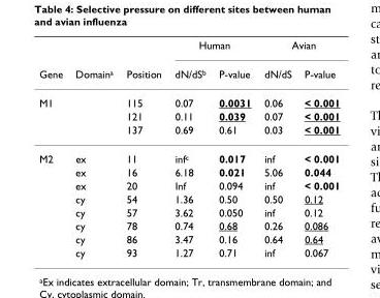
<table><thead><tr><td rowspan="2">Gene</td><td rowspan="2">Domain<sup>a</sup></td><td rowspan="2">Position</td><td colspan="2">Human</td><td colspan="2">Avian</td></tr><tr><td>dN/dS<sup>b</sup></td><td>P-value</td><td>dN/dS</td><td>P-value</td></tr></thead><tbody><tr><td rowspan="3">M1</td><td></td><td>115</td><td>0.07</td><td>0.0031</td><td>0.06</td><td>&lt; 0.001</td></tr><tr><td></td><td>121</td><td>0.11</td><td>0.039</td><td>0.07</td><td>&lt; 0.001</td></tr><tr><td></td><td>137</td><td>0.69</td><td>0.61</td><td>0.03</td><td>&lt; 0.001</td></tr><tr><td rowspan="8">M2</td><td>ex</td><td>11</td><td>inf<sup>c</sup></td><td>0.017</td><td>inf</td><td>&lt; 0.001</td></tr><tr><td>ex</td><td>16</td><td>6.18</td><td>0.021</td><td>5.06</td><td>0.044</td></tr><tr><td>ex</td><td>20</td><td>Inf</td><td>0.094</td><td>inf</td><td>&lt; 0.001</td></tr><tr><td>cy</td><td>54</td><td>1.36</td><td>0.50</td><td>0.50</td><td>0.12</td></tr><tr><td>cy</td><td>57</td><td>3.62</td><td>0.050</td><td>inf</td><td>0.12</td></tr><tr><td>cy</td><td>78</td><td>0.74</td><td>0.68</td><td>0.26</td><td>0.086</td></tr><tr><td>cy</td><td>86</td><td>3.47</td><td>0.16</td><td>0.64</td><td>0.64</td></tr><tr><td>cy</td><td>93</td><td>1.27</td><td>0.71</td><td>inf</td><td>0.067</td></tr></tbody></table>